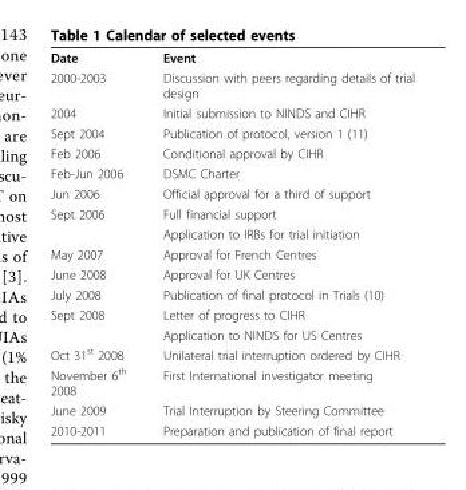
<table><tbody><tr><td>Date</td><td>Event</td></tr><tr><td>2000-2003</td><td>Discussion with peers regarding details of trial design</td></tr><tr><td>2004</td><td>Initial submission to NINDS and CIHR</td></tr><tr><td>Sept 2004</td><td>Publication of protocol, version 1 (11)</td></tr><tr><td>Feb 2006</td><td>Conditional approval by CIHR</td></tr><tr><td>Feb-Jun 2006</td><td>DSMC Charter</td></tr><tr><td>Jun 2006</td><td>Official approval for a third of support</td></tr><tr><td rowspan="2">Sept 2006</td><td>Full financial support</td></tr><tr><td>Application to IRBs for trial initiation</td></tr><tr><td>May 2007</td><td>Approval for French Centres</td></tr><tr><td>June 2008</td><td>Approval for UK Centres</td></tr><tr><td>July 2008</td><td>Publication of final protocol in Trials (10)</td></tr><tr><td rowspan="2">Sept 2008</td><td>Letter of progress to CIHR</td></tr><tr><td>Application to NINDS for US Centres</td></tr><tr><td>Oct 31<sup>st</sup> 2008</td><td>Unilateral trial interruption ordered by CIHR</td></tr><tr><td>November 6<sup>th</sup> 2008</td><td>First International investigator meeting</td></tr><tr><td>June 2009</td><td>Trial Interruption by Steering Committee</td></tr><tr><td>2010-2011</td><td>Preparation and publication of final report</td></tr></tbody></table>